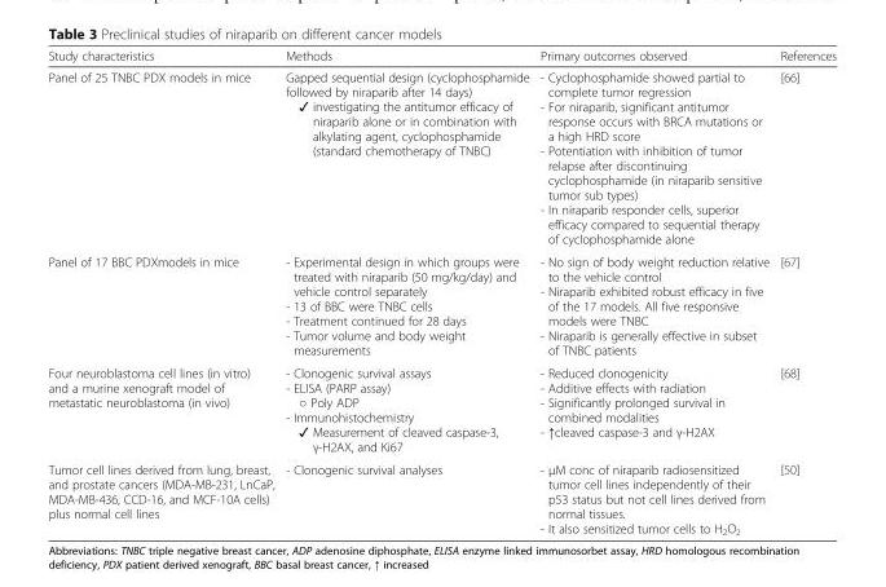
<table><thead><tr><td>Study characteristics</td><td>Methods</td><td>Primary outcomes observed</td><td>References</td></tr></thead><tbody><tr><td>Panel of 25 TNBC PDX models in mice</td><td>Gapped sequential design (cyclophosphamide followed by niraparib after 14 days) ✓ investigating the antitumor efficacy of niraparib alone or in combination with alkylating agent, cyclophosphamide (standard chemotherapy of TNBC)</td><td>- Cyclophosphamide showed partial to complete tumor regression - For niraparib, significant antitumor response occurs with BRCA mutations or a high HRD score - Potentiation with inhibition of tumor relapse after discontinuing cyclophosphamide (in niraparib sensitive tumor sub types) - In niraparib responder cells, superior efficacy compared to sequential therapy of cyclophosphamide alone</td><td>[66]</td></tr><tr><td>Panel of 17 BBC PDXmodels in mice</td><td>- Experimental design in which groups were treated with niraparib (50 mg/kg/day) and vehicle control separately - 13 of BBC were TNBC cells - Treatment continued for 28 days - Tumor volume and body weight measurements</td><td>- No sign of body weight reduction relative to the vehicle control - Niraparib exhibited robust efficacy in five of the 17 models. All five responsive models were TNBC - Niraparib is generally effective in subset of TNBC patients</td><td>[67]</td></tr><tr><td>Four neuroblastoma cell lines (in vitro) and a murine xenograft model of metastatic neuroblastoma (in vivo)</td><td>- Clonogenic survival assays - ELISA (PARP assay) ○ Poly ADP - Immunohistochemistry ✓ Measurement of cleaved caspase-3, γ-H2AX, and Ki67</td><td>- Reduced clonogenicity - Additive effects with radiation - Significantly prolonged survival in combined modalities - ↑cleaved caspase-3 and γ-H2AX</td><td>[68]</td></tr><tr><td>Tumor cell lines derived from lung, breast, and prostate cancers (MDA-MB-231, LnCaP, MDA-MB-436, CCD-16, and MCF-10A cells) plus normal cell lines</td><td>- Clonogenic survival analyses</td><td>- μM conc of niraparib radiosensitized tumor cell lines independently of their p53 status but not cell lines derived from normal tissues. - It also sensitized tumor cells to H<sub>2</sub>O<sub>2</sub></td><td>[50]</td></tr></tbody></table>